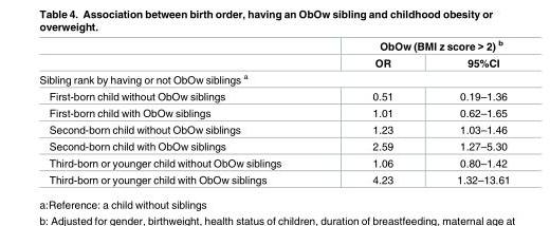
<table><thead><tr><td rowspan="2"></td><td colspan="2">ObOw (BMI z score &gt; 2) <sup>b</sup></td></tr><tr><td>OR</td><td>95%CI</td></tr></thead><tbody><tr><td colspan="3">Sibling rank by having or not ObOw siblings <sup>a</sup></td></tr><tr><td>First-born child without ObOw siblings</td><td>0.51</td><td>0.19–1.36</td></tr><tr><td>First-born child with ObOw siblings</td><td>1.01</td><td>0.62–1.65</td></tr><tr><td>Second-born child without ObOw siblings</td><td>1.23</td><td>1.03–1.46</td></tr><tr><td>Second-born child with ObOw siblings</td><td>2.59</td><td>1.27–5.30</td></tr><tr><td>Third-born or younger child without ObOw siblings</td><td>1.06</td><td>0.80–1.42</td></tr><tr><td>Third-born or younger child with ObOw siblings</td><td>4.23</td><td>1.32–13.61</td></tr></tbody></table>